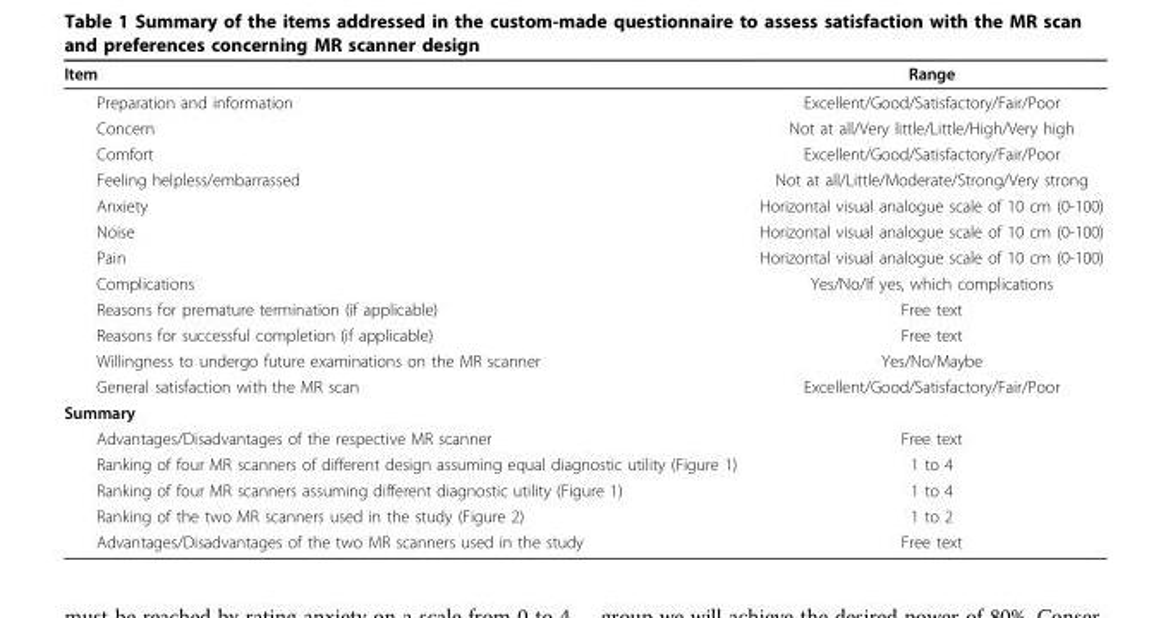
<table><thead><tr><td>Item</td><td>Range</td></tr></thead><tbody><tr><td>Preparation and information</td><td>Excellent/Good/Satisfactory/Fair/Poor</td></tr><tr><td>Concern</td><td>Not at all/Very little/Little/High/Very high</td></tr><tr><td>Comfort</td><td>Excellent/Good/Satisfactory/Fair/Poor</td></tr><tr><td>Feeling helpless/embarrassed</td><td>Not at all/Little/Moderate/Strong/Very strong</td></tr><tr><td>Anxiety</td><td>Horizontal visual analogue scale of 10 cm (0-100)</td></tr><tr><td>Noise</td><td>Horizontal visual analogue scale of 10 cm (0-100)</td></tr><tr><td>Pain</td><td>Horizontal visual analogue scale of 10 cm (0-100)</td></tr><tr><td>Complications</td><td>Yes/No/If yes, which complications</td></tr><tr><td>Reasons for premature termination (if applicable)</td><td>Free text</td></tr><tr><td>Reasons for successful completion (if applicable)</td><td>Free text</td></tr><tr><td>Willingness to undergo future examinations on the MR scanner</td><td>Yes/No/Maybe</td></tr><tr><td>General satisfaction with the MR scan</td><td>Excellent/Good/Satisfactory/Fair/Poor</td></tr><tr><td colspan="2">Summary</td></tr><tr><td>Advantages/Disadvantages of the respective MR scanner</td><td>Free text</td></tr><tr><td>Ranking of four MR scanners of different design assuming equal diagnostic utility (Figure 1)</td><td>1 to 4</td></tr><tr><td>Ranking of four MR scanners assuming different diagnostic utility (Figure 1)</td><td>1 to 4</td></tr><tr><td>Ranking of the two MR scanners used in the study (Figure 2)</td><td>1 to 2</td></tr><tr><td>Advantages/Disadvantages of the two MR scanners used in the study</td><td>Free text</td></tr></tbody></table>